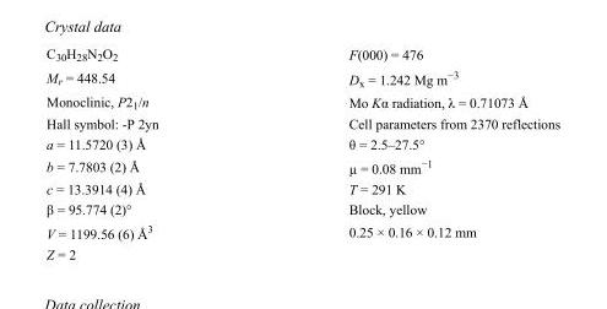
<table><tbody><tr><td>C<sub>30</sub>H<sub>28</sub>N<sub>2</sub>O<sub>2</sub></td><td>F(000) = 476</td></tr><tr><td>M<sub>r</sub> = 448.54</td><td>D<sub>x</sub> = 1.242 Mg m<sup>−3</sup></td></tr><tr><td>Monoclinic, P2<sub>1</sub>/n</td><td>Mo Kα radiation, λ = 0.71073 Å</td></tr><tr><td>Hall symbol: -P 2yn</td><td>Cell parameters from 2370 reflections</td></tr><tr><td>a = 11.5720 (3) Å</td><td>θ = 2.5–27.5°</td></tr><tr><td>b = 7.7803 (2) Å</td><td>µ = 0.08 mm<sup>−1</sup></td></tr><tr><td>c = 13.3914 (4) Å</td><td>T = 291 K</td></tr><tr><td>β = 95.774 (2)°</td><td>Block, yellow</td></tr><tr><td>V = 1199.56 (6) Å<sup>3</sup></td><td>0.25 × 0.16 × 0.12 mm</td></tr><tr><td>Z = 2</td><td></td></tr></tbody></table>